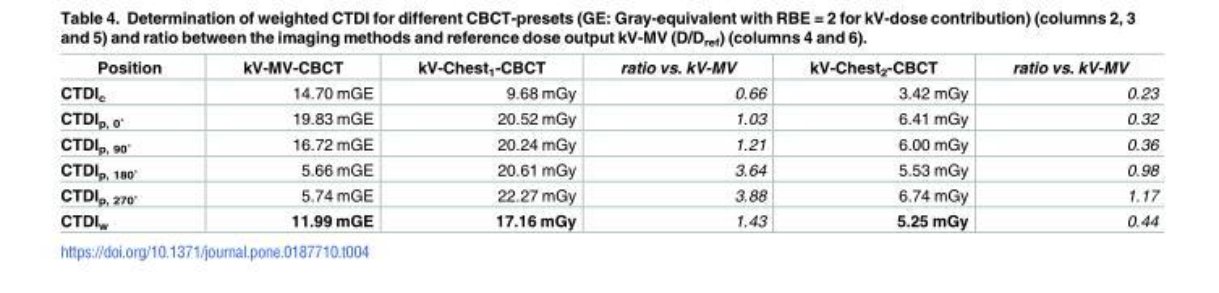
<table><thead><tr><td>Position</td><td>kV-MV-CBCT</td><td>kV-Chest<sub>1</sub>-CBCT</td><td>ratio vs. kV-MV</td><td>kV-Chest<sub>2</sub>-CBCT</td><td>ratio vs. kV-MV</td></tr></thead><tbody><tr><td>CTDI<sub>c</sub></td><td>14.70 mGE</td><td>9.68 mGy</td><td>0.66</td><td>3.42 mGy</td><td>0.23</td></tr><tr><td>CTDIp, 0˚</td><td>19.83 mGE</td><td>20.52 mGy</td><td>1.03</td><td>6.41 mGy</td><td>0.32</td></tr><tr><td>CTDIp, 90˚</td><td>16.72 mGE</td><td>20.24 mGy</td><td>1.21</td><td>6.00 mGy</td><td>0.36</td></tr><tr><td>CTDIp, 180˚</td><td>5.66 mGE</td><td>20.61 mGy</td><td>3.64</td><td>5.53 mGy</td><td>0.98</td></tr><tr><td>CTDIp, 270˚</td><td>5.74 mGE</td><td>22.27 mGy</td><td>3.88</td><td>6.74 mGy</td><td>1.17</td></tr><tr><td>CTDI<sub>w</sub></td><td>11.99 mGE</td><td>17.16 mGy</td><td>1.43</td><td>5.25 mGy</td><td>0.44</td></tr></tbody></table>